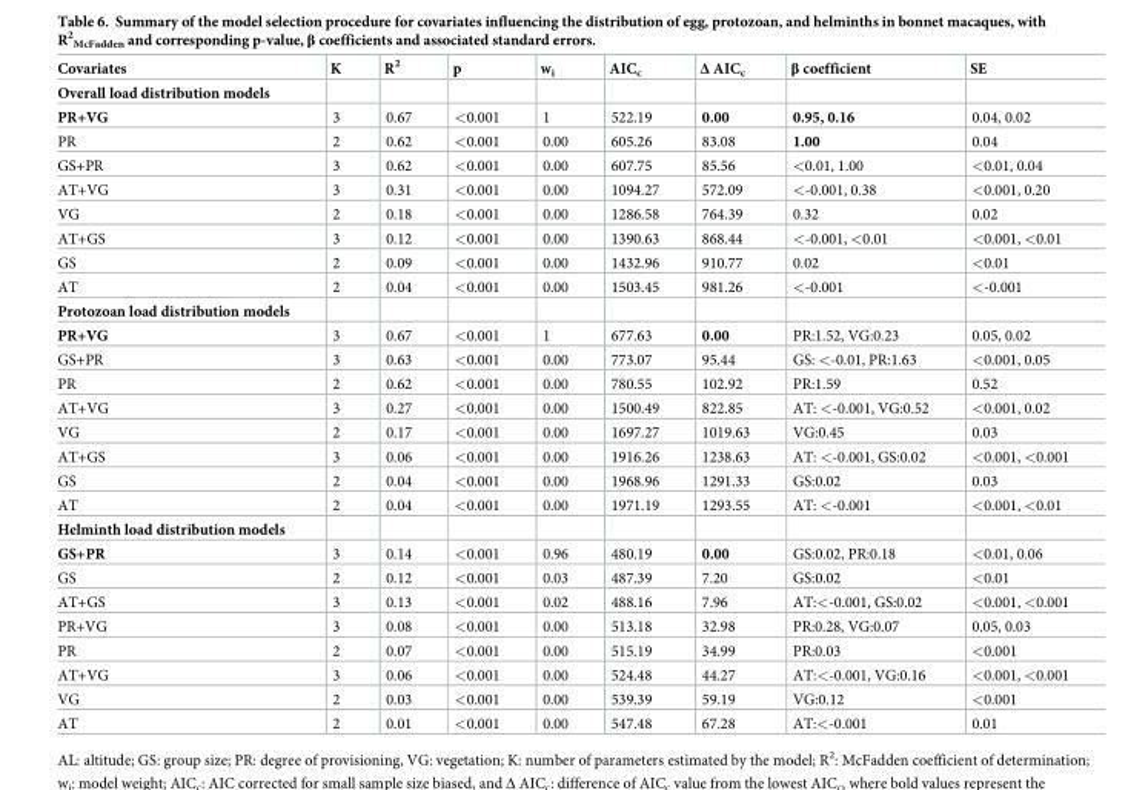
<table><thead><tr><td>Covariates</td><td>K</td><td>R<sup>2</sup></td><td>p</td><td>w<sub>i</sub></td><td>AIC<sub>c</sub></td><td>Δ AIC<sub>c</sub></td><td>β coefficient</td><td>SE</td></tr></thead><tbody><tr><td colspan="9">Overall load distribution models</td></tr><tr><td>PR+VG</td><td>3</td><td>0.67</td><td>&lt;0.001</td><td>1</td><td>522.19</td><td>0.00</td><td>0.95, 0.16</td><td>0.04, 0.02</td></tr><tr><td>PR</td><td>2</td><td>0.62</td><td>&lt;0.001</td><td>0.00</td><td>605.26</td><td>83.08</td><td>1.00</td><td>0.04</td></tr><tr><td>GS+PR</td><td>3</td><td>0.62</td><td>&lt;0.001</td><td>0.00</td><td>607.75</td><td>85.56</td><td>&lt;0.01, 1.00</td><td>&lt;0.01, 0.04</td></tr><tr><td>AT+VG</td><td>3</td><td>0.31</td><td>&lt;0.001</td><td>0.00</td><td>1094.27</td><td>572.09</td><td>&lt;-0.001, 0.38</td><td>&lt;0.001, 0.20</td></tr><tr><td>VG</td><td>2</td><td>0.18</td><td>&lt;0.001</td><td>0.00</td><td>1286.58</td><td>764.39</td><td>0.32</td><td>0.02</td></tr><tr><td>AT+GS</td><td>3</td><td>0.12</td><td>&lt;0.001</td><td>0.00</td><td>1390.63</td><td>868.44</td><td>&lt;-0.001, &lt;0.01</td><td>&lt;0.001, &lt;0.01</td></tr><tr><td>GS</td><td>2</td><td>0.09</td><td>&lt;0.001</td><td>0.00</td><td>1432.96</td><td>910.77</td><td>0.02</td><td>&lt;0.01</td></tr><tr><td>AT</td><td>2</td><td>0.04</td><td>&lt;0.001</td><td>0.00</td><td>1503.45</td><td>981.26</td><td>&lt;-0.001</td><td>&lt;-0.001</td></tr><tr><td colspan="9">Protozoan load distribution models</td></tr><tr><td>PR+VG</td><td>3</td><td>0.67</td><td>&lt;0.001</td><td>1</td><td>677.63</td><td>0.00</td><td>PR:1.52, VG:0.23</td><td>0.05, 0.02</td></tr><tr><td>GS+PR</td><td>3</td><td>0.63</td><td>&lt;0.001</td><td>0.00</td><td>773.07</td><td>95.44</td><td>GS: &lt;-0.01, PR:1.63</td><td>&lt;0.001, 0.05</td></tr><tr><td>PR</td><td>2</td><td>0.62</td><td>&lt;0.001</td><td>0.00</td><td>780.55</td><td>102.92</td><td>PR:1.59</td><td>0.52</td></tr><tr><td>AT+VG</td><td>3</td><td>0.27</td><td>&lt;0.001</td><td>0.00</td><td>1500.49</td><td>822.85</td><td>AT: &lt;-0.001, VG:0.52</td><td>&lt;0.001, 0.02</td></tr><tr><td>VG</td><td>2</td><td>0.17</td><td>&lt;0.001</td><td>0.00</td><td>1697.27</td><td>1019.63</td><td>VG:0.45</td><td>0.03</td></tr><tr><td>AT+GS</td><td>3</td><td>0.06</td><td>&lt;0.001</td><td>0.00</td><td>1916.26</td><td>1238.63</td><td>AT: &lt;-0.001, GS:0.02</td><td>&lt;0.001, &lt;0.001</td></tr><tr><td>GS</td><td>2</td><td>0.04</td><td>&lt;0.001</td><td>0.00</td><td>1968.96</td><td>1291.33</td><td>GS:0.02</td><td>0.03</td></tr><tr><td>AT</td><td>2</td><td>0.04</td><td>&lt;0.001</td><td>0.00</td><td>1971.19</td><td>1293.55</td><td>AT: &lt;-0.001</td><td>&lt;0.001, &lt;0.01</td></tr><tr><td colspan="9">Helminth load distribution models</td></tr><tr><td>GS+PR</td><td>3</td><td>0.14</td><td>&lt;0.001</td><td>0.96</td><td>480.19</td><td>0.00</td><td>GS:0.02, PR:0.18</td><td>&lt;0.01, 0.06</td></tr><tr><td>GS</td><td>2</td><td>0.12</td><td>&lt;0.001</td><td>0.03</td><td>487.39</td><td>7.20</td><td>GS:0.02</td><td>&lt;0.01</td></tr><tr><td>AT+GS</td><td>3</td><td>0.13</td><td>&lt;0.001</td><td>0.02</td><td>488.16</td><td>7.96</td><td>AT:&lt;-0.001, GS:0.02</td><td>&lt;0.001, &lt;0.001</td></tr><tr><td>PR+VG</td><td>3</td><td>0.08</td><td>&lt;0.001</td><td>0.00</td><td>513.18</td><td>32.98</td><td>PR:0.28, VG:0.07</td><td>0.05, 0.03</td></tr><tr><td>PR</td><td>2</td><td>0.07</td><td>&lt;0.001</td><td>0.00</td><td>515.19</td><td>34.99</td><td>PR:0.03</td><td>&lt;0.001</td></tr><tr><td>AT+VG</td><td>3</td><td>0.06</td><td>&lt;0.001</td><td>0.00</td><td>524.48</td><td>44.27</td><td>AT:&lt;-0.001, VG:0.16</td><td>&lt;0.001, &lt;0.001</td></tr><tr><td>VG</td><td>2</td><td>0.03</td><td>&lt;0.001</td><td>0.00</td><td>539.39</td><td>59.19</td><td>VG:0.12</td><td>&lt;0.001</td></tr><tr><td>AT</td><td>2</td><td>0.01</td><td>&lt;0.001</td><td>0.00</td><td>547.48</td><td>67.28</td><td>AT:&lt;-0.001</td><td>0.01</td></tr></tbody></table>